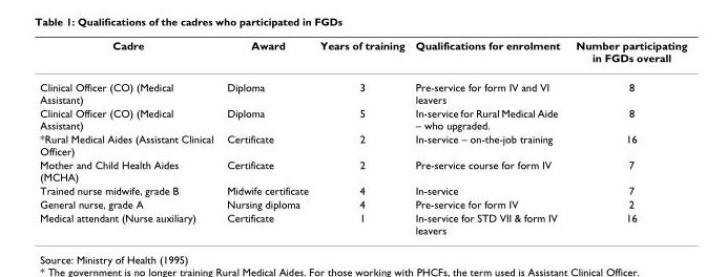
<table><thead><tr><td>Cadre</td><td>Award</td><td>Years of training</td><td>Qualifications for enrolment</td><td>Number participating in FGDs overall</td></tr></thead><tbody><tr><td>Clinical Officer (CO) (Medical Assistant)</td><td>Diploma</td><td>3</td><td>Pre-service for form IV and VI leavers</td><td>8</td></tr><tr><td>Clinical Officer (CO) (Medical Assistant)</td><td>Diploma</td><td>5</td><td>In-service for Rural Medical Aide – who upgraded.</td><td>8</td></tr><tr><td>*Rural Medical Aides (Assistant Clinical Officer)</td><td>Certificate</td><td>2</td><td>In-service – on-the-job training</td><td>16</td></tr><tr><td>Mother and Child Health Aides (MCHA)</td><td>Certificate</td><td>2</td><td>Pre-service course for form IV</td><td>7</td></tr><tr><td>Trained nurse midwife, grade B</td><td>Midwife certificate</td><td>4</td><td>In-service</td><td>7</td></tr><tr><td>General nurse, grade A</td><td>Nursing diploma</td><td>4</td><td>Pre-service for form IV</td><td>2</td></tr><tr><td>Medical attendant (Nurse auxiliary)</td><td>Certificate</td><td>1</td><td>In-service for STD VII &amp; form IV leavers</td><td>16</td></tr></tbody></table>